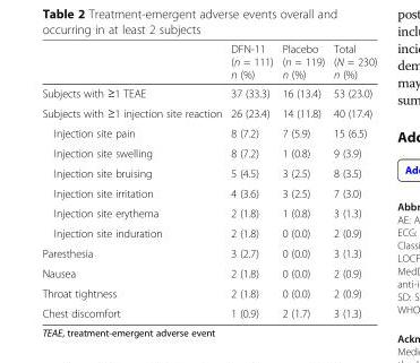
<table><thead><tr><td></td><td>DFN-11 (n = 111) n (%)</td><td>Placebo (n = 119) n (%)</td><td>Total (N = 230) n (%)</td></tr></thead><tbody><tr><td>Subjects with ≥1 TEAE</td><td>37 (33.3)</td><td>16 (13.4)</td><td>53 (23.0)</td></tr><tr><td>Subjects with ≥1 injection site reaction</td><td>26 (23.4)</td><td>14 (11.8)</td><td>40 (17.4)</td></tr><tr><td>Injection site pain</td><td>8 (7.2)</td><td>7 (5.9)</td><td>15 (6.5)</td></tr><tr><td>Injection site swelling</td><td>8 (7.2)</td><td>1 (0.8)</td><td>9 (3.9)</td></tr><tr><td>Injection site bruising</td><td>5 (4.5)</td><td>3 (2.5)</td><td>8 (3.5)</td></tr><tr><td>Injection site irritation</td><td>4 (3.6)</td><td>3 (2.5)</td><td>7 (3.0)</td></tr><tr><td>Injection site erythema</td><td>2 (1.8)</td><td>1 (0.8)</td><td>3 (1.3)</td></tr><tr><td>Injection site induration</td><td>2 (1.8)</td><td>0 (0.0)</td><td>2 (0.9)</td></tr><tr><td>Paresthesia</td><td>3 (2.7)</td><td>0 (0.0)</td><td>3 (1.3)</td></tr><tr><td>Nausea</td><td>2 (1.8)</td><td>0 (0.0)</td><td>2 (0.9)</td></tr><tr><td>Throat tightness</td><td>2 (1.8)</td><td>0 (0.0)</td><td>2 (0.9)</td></tr><tr><td>Chest discomfort</td><td>1 (0.9)</td><td>2 (1.7)</td><td>3 (1.3)</td></tr></tbody></table>